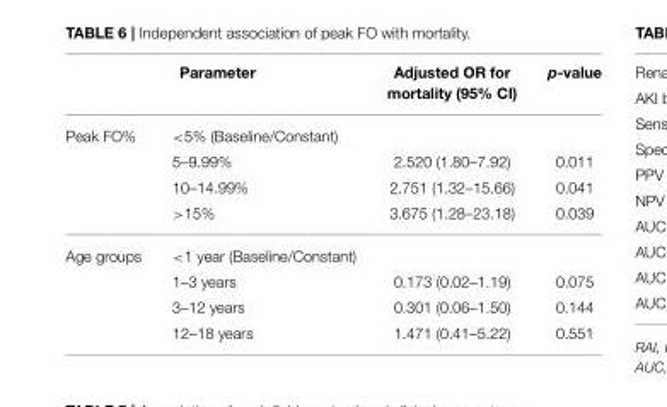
<table><thead><tr><td></td><td>Parameter</td><td>Adjusted OR for mortality (95% CI)</td><td>p-value</td></tr></thead><tbody><tr><td rowspan="4">Peak FO%</td><td>&lt;5% (Baseline/Constant)</td><td></td><td></td></tr><tr><td>5–9.99%</td><td>2.520 (1.80–7.92)</td><td>0.011</td></tr><tr><td>10–14.99%</td><td>2.751 (1.32–15.66)</td><td>0.041</td></tr><tr><td>&gt;15%</td><td>3.675 (1.28–23.18)</td><td>0.039</td></tr><tr><td rowspan="4">Age groups</td><td>&lt;1 year (Baseline/Constant)</td><td></td><td></td></tr><tr><td>1–3 years</td><td>0.173 (0.02–1.19)</td><td>0.075</td></tr><tr><td>3–12 years</td><td>0.301 (0.06–1.50)</td><td>0.144</td></tr><tr><td>12–18 years</td><td>1.471 (0.41–5.22)</td><td>0.551</td></tr></tbody></table>